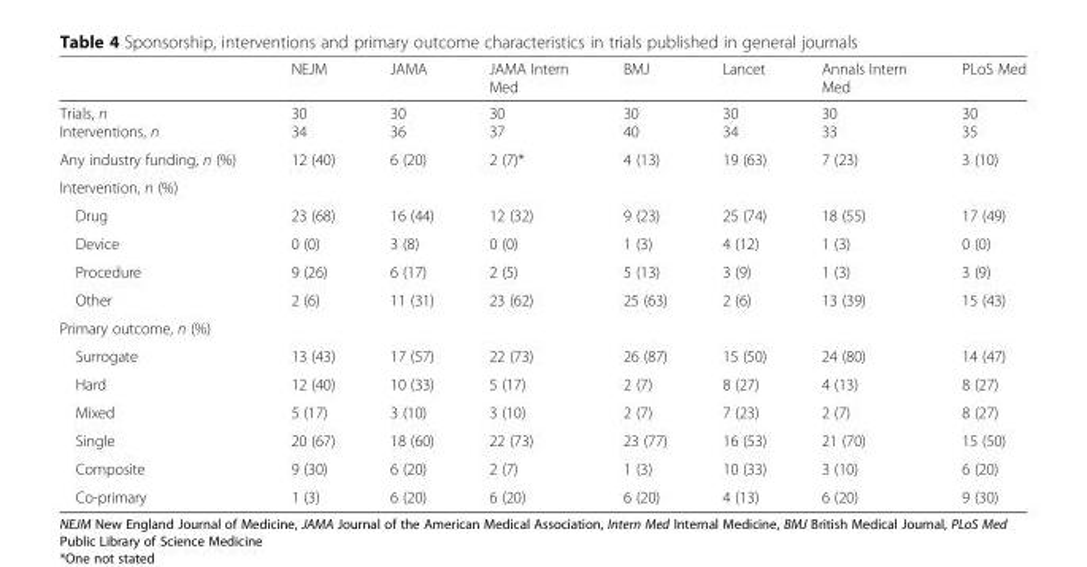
<table><thead><tr><td></td><td>NEJM</td><td>JAMA</td><td>JAMA Intern Med</td><td>BMJ</td><td>Lancet</td><td>Annals Intern Med</td><td>PLoS Med</td></tr></thead><tbody><tr><td>Trials, n Interventions, n</td><td>30 34</td><td>30 36</td><td>30 37</td><td>30 40</td><td>30 34</td><td>30 33</td><td>30 35</td></tr><tr><td>Any industry funding, n (%)</td><td>12 (40)</td><td>6 (20)</td><td>2 (7)*</td><td>4 (13)</td><td>19 (63)</td><td>7 (23)</td><td>3 (10)</td></tr><tr><td colspan="8">Intervention, n (%)</td></tr><tr><td>Drug</td><td>23 (68)</td><td>16 (44)</td><td>12 (32)</td><td>9 (23)</td><td>25 (74)</td><td>18 (55)</td><td>17 (49)</td></tr><tr><td>Device</td><td>0 (0)</td><td>3 (8)</td><td>0 (0)</td><td>1 (3)</td><td>4 (12)</td><td>1 (3)</td><td>0 (0)</td></tr><tr><td>Procedure</td><td>9 (26)</td><td>6 (17)</td><td>2 (5)</td><td>5 (13)</td><td>3 (9)</td><td>1 (3)</td><td>3 (9)</td></tr><tr><td>Other</td><td>2 (6)</td><td>11 (31)</td><td>23 (62)</td><td>25 (63)</td><td>2 (6)</td><td>13 (39)</td><td>15 (43)</td></tr><tr><td colspan="8">Primary outcome, n (%)</td></tr><tr><td>Surrogate</td><td>13 (43)</td><td>17 (57)</td><td>22 (73)</td><td>26 (87)</td><td>15 (50)</td><td>24 (80)</td><td>14 (47)</td></tr><tr><td>Hard</td><td>12 (40)</td><td>10 (33)</td><td>5 (17)</td><td>2 (7)</td><td>8 (27)</td><td>4 (13)</td><td>8 (27)</td></tr><tr><td>Mixed</td><td>5 (17)</td><td>3 (10)</td><td>3 (10)</td><td>2 (7)</td><td>7 (23)</td><td>2 (7)</td><td>8 (27)</td></tr><tr><td>Single</td><td>20 (67)</td><td>18 (60)</td><td>22 (73)</td><td>23 (77)</td><td>16 (53)</td><td>21 (70)</td><td>15 (50)</td></tr><tr><td>Composite</td><td>9 (30)</td><td>6 (20)</td><td>2 (7)</td><td>1 (3)</td><td>10 (33)</td><td>3 (10)</td><td>6 (20)</td></tr><tr><td>Co-primary</td><td>1 (3)</td><td>6 (20)</td><td>6 (20)</td><td>6 (20)</td><td>4 (13)</td><td>6 (20)</td><td>9 (30)</td></tr></tbody></table>